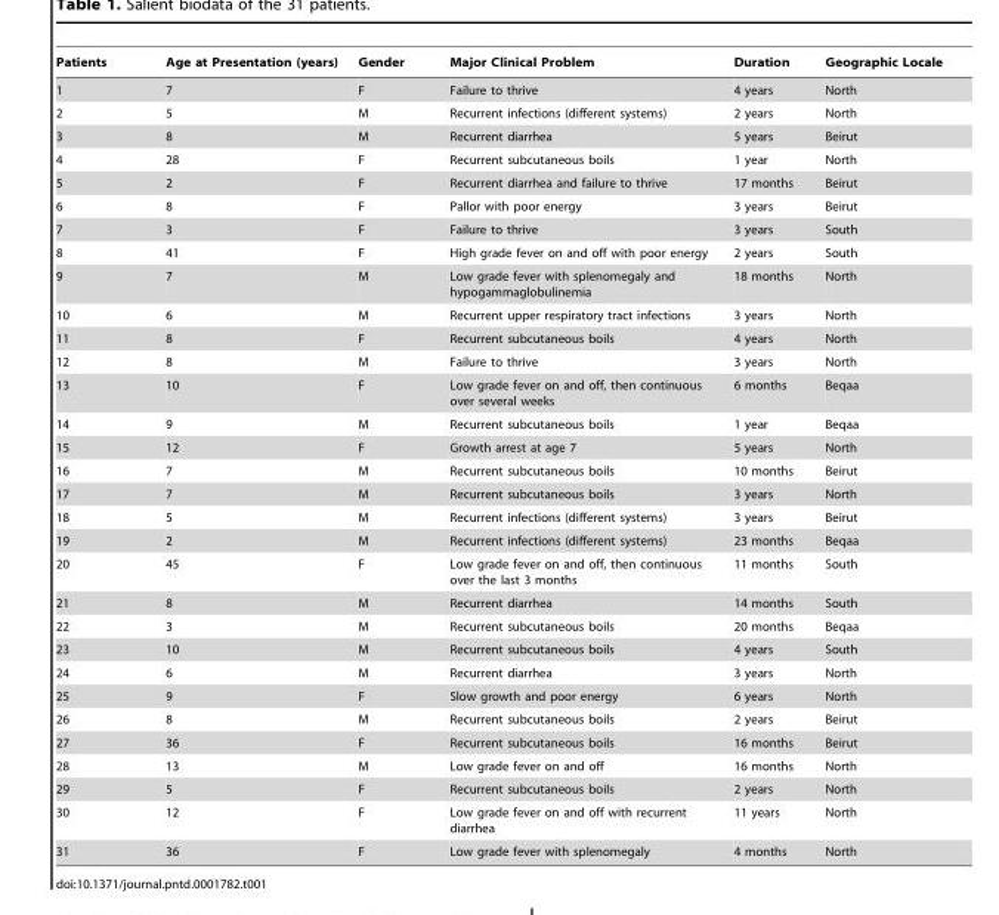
<table><thead><tr><td>Patients</td><td>Age at Presentation (years)</td><td>Gender</td><td>Major Clinical Problem</td><td>Duration</td><td>Geographic Locale</td></tr></thead><tbody><tr><td>1</td><td>7</td><td>F</td><td>Failure to thrive</td><td>4 years</td><td>North</td></tr><tr><td>2</td><td>5</td><td>M</td><td>Recurrent infections (different systems)</td><td>2 years</td><td>North</td></tr><tr><td>3</td><td>8</td><td>M</td><td>Recurrent diarrhea</td><td>5 years</td><td>Beirut</td></tr><tr><td>4</td><td>28</td><td>F</td><td>Recurrent subcutaneous boils</td><td>1 year</td><td>North</td></tr><tr><td>5</td><td>2</td><td>F</td><td>Recurrent diarrhea and failure to thrive</td><td>17 months</td><td>Beirut</td></tr><tr><td>6</td><td>8</td><td>F</td><td>Pallor with poor energy</td><td>3 years</td><td>Beirut</td></tr><tr><td>7</td><td>3</td><td>F</td><td>Failure to thrive</td><td>3 years</td><td>South</td></tr><tr><td>8</td><td>41</td><td>F</td><td>High grade fever on and off with poor energy</td><td>2 years</td><td>South</td></tr><tr><td>9</td><td>7</td><td>M</td><td>Low grade fever with splenomegaly and hypogammaglobulinemia</td><td>18 months</td><td>North</td></tr><tr><td>10</td><td>6</td><td>M</td><td>Recurrent upper respiratory tract infections</td><td>3 years</td><td>North</td></tr><tr><td>11</td><td>8</td><td>F</td><td>Recurrent subcutaneous boils</td><td>4 years</td><td>North</td></tr><tr><td>12</td><td>8</td><td>M</td><td>Failure to thrive</td><td>3 years</td><td>North</td></tr><tr><td>13</td><td>10</td><td>F</td><td>Low grade fever on and off, then continuous over several weeks</td><td>6 months</td><td>Beqaa</td></tr><tr><td>14</td><td>9</td><td>M</td><td>Recurrent subcutaneous boils</td><td>1 year</td><td>Beqaa</td></tr><tr><td>15</td><td>12</td><td>F</td><td>Growth arrest at age 7</td><td>5 years</td><td>North</td></tr><tr><td>16</td><td>7</td><td>M</td><td>Recurrent subcutaneous boils</td><td>10 months</td><td>Beirut</td></tr><tr><td>17</td><td>7</td><td>M</td><td>Recurrent subcutaneous boils</td><td>3 years</td><td>North</td></tr><tr><td>18</td><td>5</td><td>M</td><td>Recurrent infections (different systems)</td><td>3 years</td><td>Beirut</td></tr><tr><td>19</td><td>2</td><td>M</td><td>Recurrent infections (different systems)</td><td>23 months</td><td>Beqaa</td></tr><tr><td>20</td><td>45</td><td>F</td><td>Low grade fever on and off, then continuous over the last 3 months</td><td>11 months</td><td>South</td></tr><tr><td>21</td><td>8</td><td>M</td><td>Recurrent diarrhea</td><td>14 months</td><td>South</td></tr><tr><td>22</td><td>3</td><td>M</td><td>Recurrent subcutaneous boils</td><td>20 months</td><td>Beqaa</td></tr><tr><td>23</td><td>10</td><td>M</td><td>Recurrent subcutaneous boils</td><td>4 years</td><td>South</td></tr><tr><td>24</td><td>6</td><td>M</td><td>Recurrent diarrhea</td><td>3 years</td><td>North</td></tr><tr><td>25</td><td>9</td><td>F</td><td>Slow growth and poor energy</td><td>6 years</td><td>North</td></tr><tr><td>26</td><td>8</td><td>M</td><td>Recurrent subcutaneous boils</td><td>2 years</td><td>Beirut</td></tr><tr><td>27</td><td>36</td><td>F</td><td>Recurrent subcutaneous boils</td><td>16 months</td><td>Beirut</td></tr><tr><td>28</td><td>13</td><td>M</td><td>Low grade fever on and off</td><td>16 months</td><td>North</td></tr><tr><td>29</td><td>5</td><td>F</td><td>Recurrent subcutaneous boils</td><td>2 years</td><td>North</td></tr><tr><td>30</td><td>12</td><td>F</td><td>Low grade fever on and off with recurrent diarrhea</td><td>11 years</td><td>North</td></tr><tr><td>31</td><td>36</td><td>F</td><td>Low grade fever with splenomegaly</td><td>4 months</td><td>North</td></tr></tbody></table>